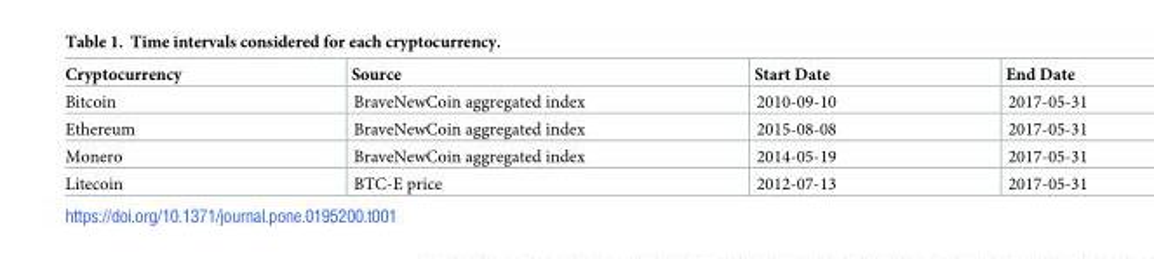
<table><thead><tr><td>Cryptocurrency</td><td>Source</td><td>Start Date</td><td>End Date</td></tr></thead><tbody><tr><td>Bitcoin</td><td>BraveNewCoin aggregated index</td><td>2010-09-10</td><td>2017-05-31</td></tr><tr><td>Ethereum</td><td>BraveNewCoin aggregated index</td><td>2015-08-08</td><td>2017-05-31</td></tr><tr><td>Monero</td><td>BraveNewCoin aggregated index</td><td>2014-05-19</td><td>2017-05-31</td></tr><tr><td>Litecoin</td><td>BTC-E price</td><td>2012-07-13</td><td>2017-05-31</td></tr></tbody></table>